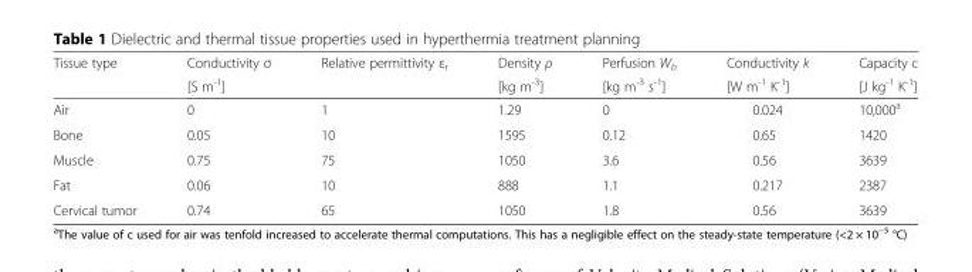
<table><thead><tr><td rowspan="2">Tissue type</td><td rowspan="2">Conductivity σ [S m<sup>-1</sup>]</td><td rowspan="2">Relative permittivity ε<sub>r</sub></td><td rowspan="2">Density ρ [kg m<sup>-3</sup>]</td><td rowspan="2">Perfusion W<sub>b</sub> [kg m<sup>-3</sup> s<sup>-1</sup>]</td><td rowspan="2">Conductivity k [W m<sup>-1</sup> K<sup>-1</sup>]</td><td rowspan="2">Capacity c [J kg<sup>-1</sup> K<sup>-1</sup>]</td></tr><tr></tr></thead><tbody><tr><td>Air</td><td>0</td><td>1</td><td>1.29</td><td>0</td><td>0.024</td><td>10,000<sup>a</sup></td></tr><tr><td>Bone</td><td>0.05</td><td>10</td><td>1595</td><td>0.12</td><td>0.65</td><td>1420</td></tr><tr><td>Muscle</td><td>0.75</td><td>75</td><td>1050</td><td>3.6</td><td>0.56</td><td>3639</td></tr><tr><td>Fat</td><td>0.06</td><td>10</td><td>888</td><td>1.1</td><td>0.217</td><td>2387</td></tr><tr><td>Cervical tumor</td><td>0.74</td><td>65</td><td>1050</td><td>1.8</td><td>0.56</td><td>3639</td></tr></tbody></table>